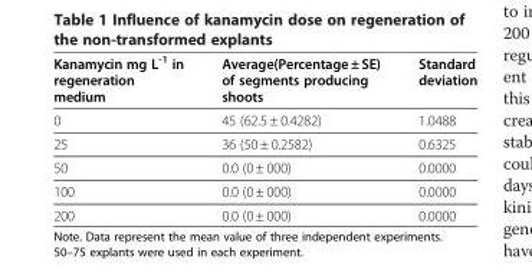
<table><thead><tr><td>Kanamycin mg L<sup>-1</sup> in regeneration medium</td><td>Average(Percentage ± SE) of segments producing shoots</td><td>Standard deviation</td></tr></thead><tbody><tr><td>0</td><td>45 (62.5 ± 0.4282)</td><td>1.0488</td></tr><tr><td>25</td><td>36 (50 ± 0.2582)</td><td>0.6325</td></tr><tr><td>50</td><td>0.0 (0 ± 000)</td><td>0.0000</td></tr><tr><td>100</td><td>0.0 (0 ± 000)</td><td>0.0000</td></tr><tr><td>200</td><td>0.0 (0 ± 000)</td><td>0.0000</td></tr></tbody></table>